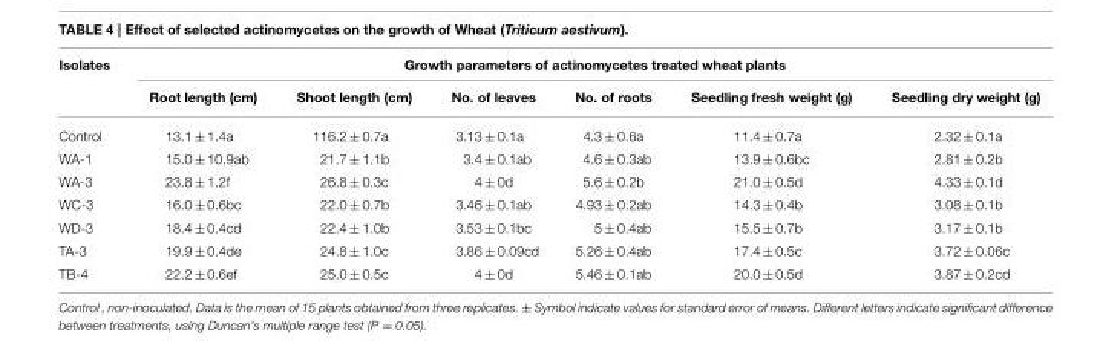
<table><thead><tr><td rowspan="2">Isolates</td><td colspan="6">Growth parameters of actinomycetes treated wheat plants</td></tr><tr><td>Root length (cm)</td><td>Shoot length (cm)</td><td>No. of leaves</td><td>No. of roots</td><td>Seedling fresh weight (g)</td><td>Seedling dry weight (g)</td></tr></thead><tbody><tr><td>Control</td><td>13.1 ± 1.4a</td><td>116.2 ± 0.7a</td><td>3.13 ± 0.1a</td><td>4.3 ± 0.6a</td><td>11.4 ± 0.7a</td><td>2.32 ± 0.1a</td></tr><tr><td>WA-1</td><td>15.0 ± 10.9ab</td><td>21.7 ± 1.1b</td><td>3.4 ± 0.1ab</td><td>4.6 ± 0.3ab</td><td>13.9 ± 0.6bc</td><td>2.81 ± 0.2b</td></tr><tr><td>WA-3</td><td>23.8 ± 1.2f</td><td>26.8 ± 0.3c</td><td>4 ± 0d</td><td>5.6 ± 0.2b</td><td>21.0 ± 0.5d</td><td>4.33 ± 0.1d</td></tr><tr><td>WC-3</td><td>16.0 ± 0.6bc</td><td>22.0 ± 0.7b</td><td>3.46 ± 0.1ab</td><td>4.93 ± 0.2ab</td><td>14.3 ± 0.4b</td><td>3.08 ± 0.1b</td></tr><tr><td>WD-3</td><td>18.4 ± 0.4cd</td><td>22.4 ± 1.0b</td><td>3.53 ± 0.1bc</td><td>5 ± 0.4ab</td><td>15.5 ± 0.7b</td><td>3.17 ± 0.1b</td></tr><tr><td>TA-3</td><td>19.9 ± 0.4de</td><td>24.8 ± 1.0c</td><td>3.86 ± 0.09cd</td><td>5.26 ± 0.4ab</td><td>17.4 ± 0.5c</td><td>3.72 ± 0.06c</td></tr><tr><td>TB-4</td><td>22.2 ± 0.6ef</td><td>25.0 ± 0.5c</td><td>4 ± 0d</td><td>5.46 ± 0.1ab</td><td>20.0 ± 0.5d</td><td>3.87 ± 0.2cd</td></tr></tbody></table>